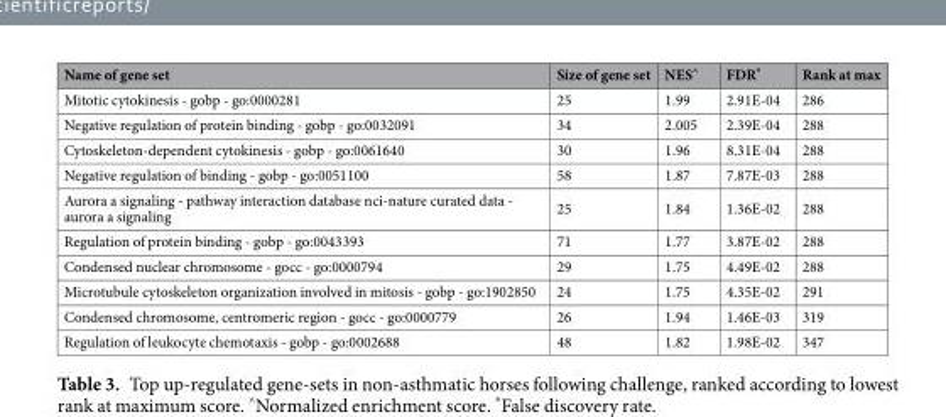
<table><thead><tr><td>Name of gene set</td><td>Size of gene set</td><td>NES<sup>^</sup></td><td>FDR*</td><td>Rank at max</td></tr></thead><tbody><tr><td>Mitotic cytokinesis - gobp - go:0000281</td><td>25</td><td>1.99</td><td>2.91E-04</td><td>286</td></tr><tr><td>Negative regulation of protein binding - gobp - go:0032091</td><td>34</td><td>2.005</td><td>2.39E-04</td><td>288</td></tr><tr><td>Cytoskeleton-dependent cytokinesis - gobp - go:0061640</td><td>30</td><td>1.96</td><td>8.31E-04</td><td>288</td></tr><tr><td>Negative regulation of binding - gobp - go:0051100</td><td>58</td><td>1.87</td><td>7.87E-03</td><td>288</td></tr><tr><td>Aurora a signaling - pathway interaction database nci-nature curated data - aurora a signaling</td><td>25</td><td>1.84</td><td>1.36E-02</td><td>288</td></tr><tr><td>Regulation of protein binding - gobp - go:0043393</td><td>71</td><td>1.77</td><td>3.87E-02</td><td>288</td></tr><tr><td>Condensed nuclear chromosome - gocc - go:0000794</td><td>29</td><td>1.75</td><td>4.49E-02</td><td>288</td></tr><tr><td>Microtubule cytoskeleton organization involved in mitosis - gobp - go:1902850</td><td>24</td><td>1.75</td><td>4.35E-02</td><td>291</td></tr><tr><td>Condensed chromosome, centromeric region - gocc - go:0000779</td><td>26</td><td>1.94</td><td>1.46E-03</td><td>319</td></tr><tr><td>Regulation of leukocyte chemotaxis - gobp - go:0002688</td><td>48</td><td>1.82</td><td>1.98E-02</td><td>347</td></tr></tbody></table>